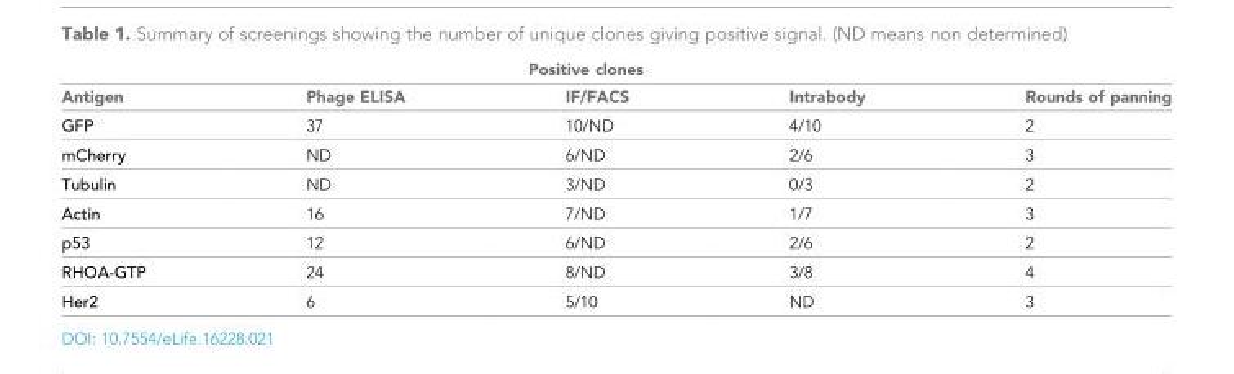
<table><thead><tr><td rowspan="2">Antigen</td><td colspan="3">Positive clones</td><td rowspan="2">Rounds of panning</td></tr><tr><td>Phage ELISA</td><td>IF/FACS</td><td>Intrabody</td></tr></thead><tbody><tr><td>GFP</td><td>37</td><td>10/ND</td><td>4/10</td><td>2</td></tr><tr><td>mCherry</td><td>ND</td><td>6/ND</td><td>2/6</td><td>3</td></tr><tr><td>Tubulin</td><td>ND</td><td>3/ND</td><td>0/3</td><td>2</td></tr><tr><td>Actin</td><td>16</td><td>7/ND</td><td>1/7</td><td>3</td></tr><tr><td>p53</td><td>12</td><td>6/ND</td><td>2/6</td><td>2</td></tr><tr><td>RHOA-GTP</td><td>24</td><td>8/ND</td><td>3/8</td><td>4</td></tr><tr><td>Her2</td><td>6</td><td>5/10</td><td>ND</td><td>3</td></tr></tbody></table>